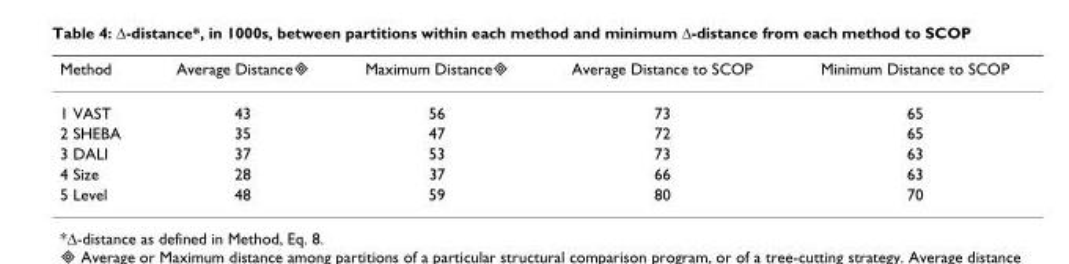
<table><thead><tr><td>Method</td><td>Average Distance◊</td><td>Maximum Distance◊</td><td>Average Distance to SCOP</td><td>Minimum Distance to SCOP</td></tr></thead><tbody><tr><td>1 VAST</td><td>43</td><td>56</td><td>73</td><td>65</td></tr><tr><td>2 SHEBA</td><td>35</td><td>47</td><td>72</td><td>65</td></tr><tr><td>3 DALI</td><td>37</td><td>53</td><td>73</td><td>63</td></tr><tr><td>4 Size</td><td>28</td><td>37</td><td>66</td><td>63</td></tr><tr><td>5 Level</td><td>48</td><td>59</td><td>80</td><td>70</td></tr></tbody></table>